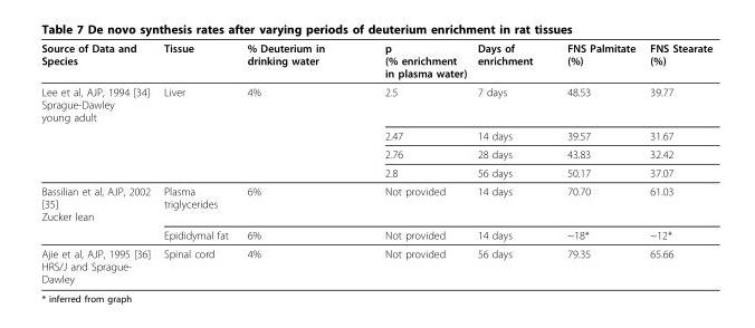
<table><thead><tr><td>Source of Data and Species</td><td>Tissue</td><td>% Deuterium in drinking water</td><td>p (% enrichment in plasma water)</td><td>Days of enrichment</td><td>FNS Palmitate (%)</td><td>FNS Stearate (%)</td></tr></thead><tbody><tr><td rowspan="4">Lee et al, AJP, 1994 [34] Sprague-Dawley young adult</td><td>Liver</td><td>4%</td><td>2.5</td><td>7 days</td><td>48.53</td><td>39.77</td></tr><tr><td></td><td></td><td>2.47</td><td>14 days</td><td>39.57</td><td>31.67</td></tr><tr><td></td><td></td><td>2.76</td><td>28 days</td><td>43.83</td><td>32.42</td></tr><tr><td></td><td></td><td>2.8</td><td>56 days</td><td>50.17</td><td>37.07</td></tr><tr><td rowspan="2">Bassilian et al, AJP, 2002 [35] Zucker lean</td><td>Plasma triglycerides</td><td>6%</td><td>Not provided</td><td>14 days</td><td>70.70</td><td>61.03</td></tr><tr><td>Epididymal fat</td><td>6%</td><td>Not provided</td><td>14 days</td><td>~18*</td><td>~12*</td></tr><tr><td>Ajie et al, AJP, 1995 [36] HRS/J and Sprague- Dawley</td><td>Spinal cord</td><td>4%</td><td>Not provided</td><td>56 days</td><td>79.35</td><td>65.66</td></tr></tbody></table>